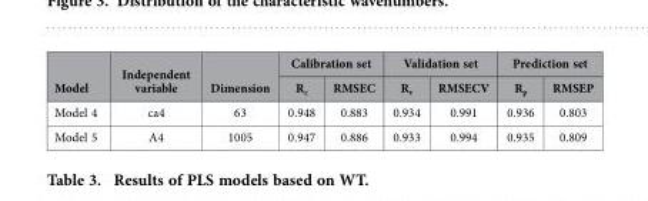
<table><thead><tr><td rowspan="2">Model</td><td rowspan="2">Independent variable</td><td rowspan="2">Dimension</td><td colspan="2">Calibration set</td><td colspan="2">Validation set</td><td colspan="2">Prediction set</td></tr><tr><td>R<sub>c</sub></td><td>RMSEC</td><td>R<sub>v</sub></td><td>RMSECV</td><td>R<sub>p</sub></td><td>RMSEP</td></tr></thead><tbody><tr><td>Model 4</td><td>ca4</td><td>63</td><td>0.948</td><td>0.883</td><td>0.934</td><td>0.991</td><td>0.936</td><td>0.803</td></tr><tr><td>Model 5</td><td>A4</td><td>1005</td><td>0.947</td><td>0.886</td><td>0.933</td><td>0.994</td><td>0.935</td><td>0.809</td></tr></tbody></table>